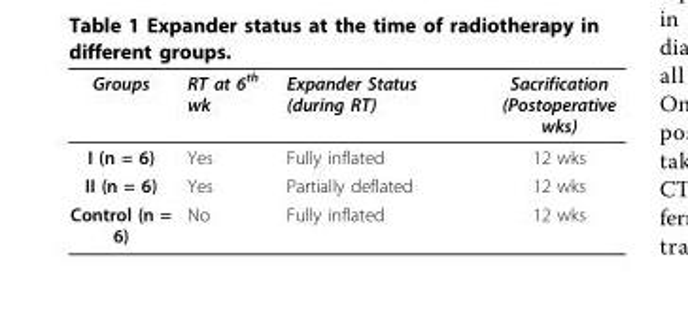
<table><thead><tr><td>Groups</td><td>RT at 6<sup>th</sup> wk</td><td>Expander Status (during RT)</td><td>Sacrification (Postoperative wks)</td></tr></thead><tbody><tr><td>I (n = 6)</td><td>Yes</td><td>Fully inflated</td><td>12 wks</td></tr><tr><td>II (n = 6)</td><td>Yes</td><td>Partially deflated</td><td>12 wks</td></tr><tr><td>Control (n = 6)</td><td>No</td><td>Fully inflated</td><td>12 wks</td></tr></tbody></table>